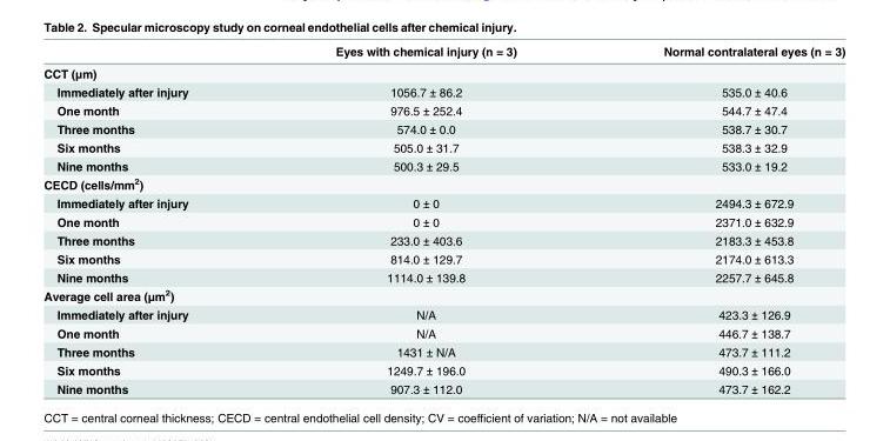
<table><thead><tr><td></td><td>Eyes with chemical injury (n = 3)</td><td>Normal contralateral eyes (n = 3)</td></tr></thead><tbody><tr><td colspan="3">CCT (μm)</td></tr><tr><td>Immediately after injury</td><td>1056.7 ± 86.2</td><td>535.0 ± 40.6</td></tr><tr><td>One month</td><td>976.5 ± 252.4</td><td>544.7 ± 47.4</td></tr><tr><td>Three months</td><td>574.0 ± 0.0</td><td>538.7 ± 30.7</td></tr><tr><td>Six months</td><td>505.0 ± 31.7</td><td>538.3 ± 32.9</td></tr><tr><td>Nine months</td><td>500.3 ± 29.5</td><td>533.0 ± 19.2</td></tr><tr><td colspan="3">CECD (cells/mm<sup>2</sup>)</td></tr><tr><td>Immediately after injury</td><td>0 ± 0</td><td>2494.3 ± 672.9</td></tr><tr><td>One month</td><td>0 ± 0</td><td>2371.0 ± 632.9</td></tr><tr><td>Three months</td><td>233.0 ± 403.6</td><td>2183.3 ± 453.8</td></tr><tr><td>Six months</td><td>814.0 ± 129.7</td><td>2174.0 ± 613.3</td></tr><tr><td>Nine months</td><td>1114.0 ± 139.8</td><td>2257.7 ± 645.8</td></tr><tr><td colspan="3">Average cell area (μm<sup>2</sup>)</td></tr><tr><td>Immediately after injury</td><td>N/A</td><td>423.3 ± 126.9</td></tr><tr><td>One month</td><td>N/A</td><td>446.7 ± 138.7</td></tr><tr><td>Three months</td><td>1431 ± N/A</td><td>473.7 ± 111.2</td></tr><tr><td>Six months</td><td>1249.7 ± 196.0</td><td>490.3 ± 166.0</td></tr><tr><td>Nine months</td><td>907.3 ± 112.0</td><td>473.7 ± 162.2</td></tr></tbody></table>